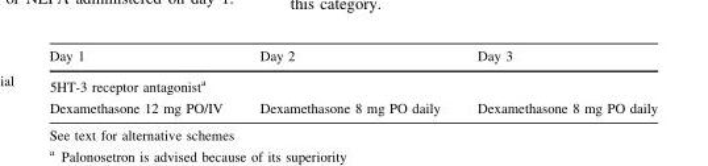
<table><thead><tr><td>Day 1</td><td>Day 2</td><td>Day 3</td></tr></thead><tbody><tr><td colspan="3">5HT-3 receptor antagonist<sup>a</sup></td></tr><tr><td>Dexamethasone 12 mg PO/IV</td><td>Dexamethasone 8 mg PO daily</td><td>Dexamethasone 8 mg PO daily</td></tr></tbody></table>